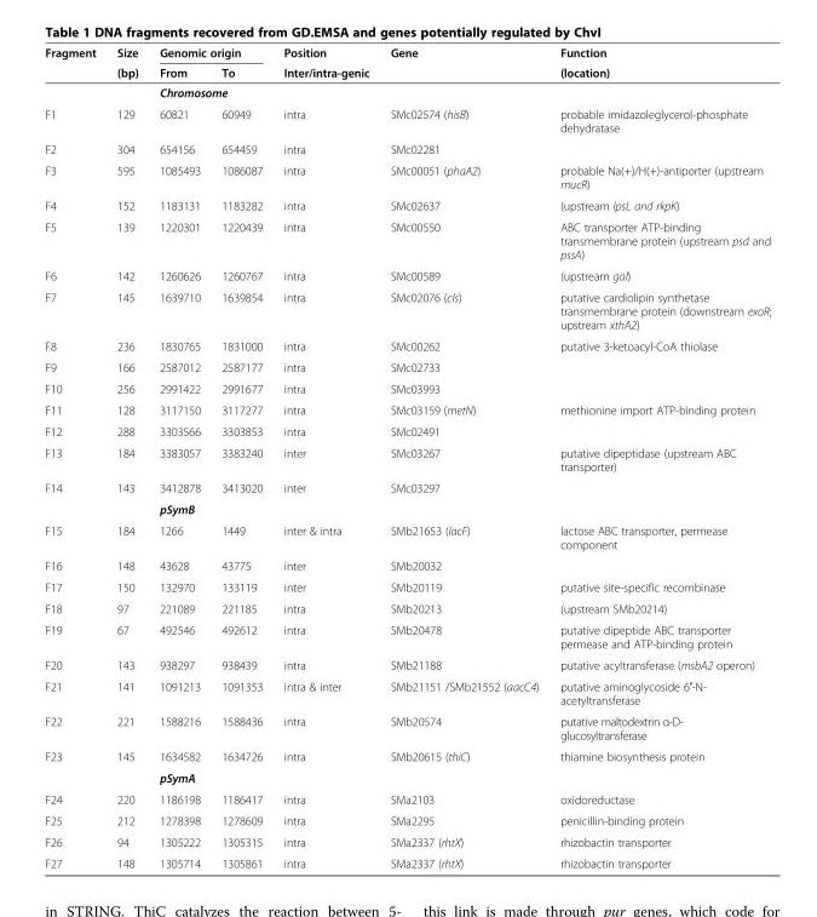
<table><thead><tr><td rowspan="2">Fragment</td><td rowspan="2">Size (bp)</td><td colspan="2">Genomic origin</td><td rowspan="2">Position Inter/intra-genic</td><td rowspan="2">Gene</td><td rowspan="2">Function (location)</td></tr><tr><td>From</td><td>To</td></tr></thead><tbody><tr><td></td><td></td><td colspan="2">Chromosome</td><td></td><td></td><td></td></tr><tr><td>F1</td><td>129</td><td>60821</td><td>60949</td><td>intra</td><td>SMc02574 (hisB)</td><td>probable imidazoleglycerol-phosphate dehydratase</td></tr><tr><td>F2</td><td>304</td><td>654156</td><td>654459</td><td>intra</td><td>SMc02281</td><td></td></tr><tr><td>F3</td><td>595</td><td>1085493</td><td>1086087</td><td>intra</td><td>SMc00051 (phaA2)</td><td>probable Na(+)/H(+)-antiporter (upstream mucR)</td></tr><tr><td>F4</td><td>152</td><td>1183131</td><td>1183282</td><td>intra</td><td>SMc02637</td><td>(upstream lpsL and rkpK)</td></tr><tr><td>F5</td><td>139</td><td>1220301</td><td>1220439</td><td>intra</td><td>SMc00550</td><td>ABC transporter ATP-binding transmembrane protein (upstream psd and pssA)</td></tr><tr><td>F6</td><td>142</td><td>1260626</td><td>1260767</td><td>intra</td><td>SMc00589</td><td>(upstream gal)</td></tr><tr><td>F7</td><td>145</td><td>1639710</td><td>1639854</td><td>intra</td><td>SMc02076 (cls)</td><td>putative cardiolipin synthetase transmembrane protein (downstream exoR; upstream xthA2)</td></tr><tr><td>F8</td><td>236</td><td>1830765</td><td>1831000</td><td>intra</td><td>SMc00262</td><td>putative 3-ketoacyl-CoA thiolase</td></tr><tr><td>F9</td><td>166</td><td>2587012</td><td>2587177</td><td>intra</td><td>SMc02733</td><td></td></tr><tr><td>F10</td><td>256</td><td>2991422</td><td>2991677</td><td>intra</td><td>SMc03993</td><td></td></tr><tr><td>F11</td><td>128</td><td>3117150</td><td>3117277</td><td>intra</td><td>SMc03159 (metN)</td><td>methionine import ATP-binding protein</td></tr><tr><td>F12</td><td>288</td><td>3303566</td><td>3303853</td><td>intra</td><td>SMc02491</td><td></td></tr><tr><td>F13</td><td>184</td><td>3383057</td><td>3383240</td><td>inter</td><td>SMc03267</td><td>putative dipeptidase (upstream ABC transporter)</td></tr><tr><td rowspan="2">F14</td><td>143</td><td>3412878</td><td>3413020</td><td>inter</td><td>SMc03297</td><td></td></tr><tr><td></td><td>pSymB</td><td></td><td></td><td></td><td></td></tr><tr><td>F15</td><td>184</td><td>1266</td><td>1449</td><td>inter &amp; intra</td><td>SMb21653 (lacF)</td><td>lactose ABC transporter, permease component</td></tr><tr><td>F16</td><td>148</td><td>43628</td><td>43775</td><td>inter</td><td>SMb20032</td><td></td></tr><tr><td>F17</td><td>150</td><td>132970</td><td>133119</td><td>inter</td><td>SMb20119</td><td>putative site-specific recombinase</td></tr><tr><td>F18</td><td>97</td><td>221089</td><td>221185</td><td>intra</td><td>SMb20213</td><td>(upstream SMb20214)</td></tr><tr><td>F19</td><td>67</td><td>492546</td><td>492612</td><td>intra</td><td>SMb20478</td><td>putative dipeptide ABC transporter permease and ATP-binding protein</td></tr><tr><td>F20</td><td>143</td><td>938297</td><td>938439</td><td>intra</td><td>SMb21188</td><td>putative acyltransferase (msbA2 operon)</td></tr><tr><td>F21</td><td>141</td><td>1091213</td><td>1091353</td><td>intra &amp; inter</td><td>SMb21151 /SMb21552 (aacC4)</td><td>putative aminoglycoside 6′-N- acetyltransferase</td></tr><tr><td>F22</td><td>221</td><td>1588216</td><td>1588436</td><td>intra</td><td>SMb20574</td><td>putative maltodextrin α-D- glucosyltransferase</td></tr><tr><td rowspan="2">F23</td><td>145</td><td>1634582</td><td>1634726</td><td>intra</td><td>SMb20615 (thiC)</td><td>thiamine biosynthesis protein</td></tr><tr><td></td><td>pSymA</td><td></td><td></td><td></td><td></td></tr><tr><td>F24</td><td>220</td><td>1186198</td><td>1186417</td><td>intra</td><td>SMa2103</td><td>oxidoreductase</td></tr><tr><td>F25</td><td>212</td><td>1278398</td><td>1278609</td><td>intra</td><td>SMa2295</td><td>penicillin-binding protein</td></tr><tr><td>F26</td><td>94</td><td>1305222</td><td>1305315</td><td>intra</td><td>SMa2337 (rhtX)</td><td>rhizobactin transporter</td></tr><tr><td>F27</td><td>148</td><td>1305714</td><td>1305861</td><td>intra</td><td>SMa2337 (rhtX)</td><td>rhizobactin transporter</td></tr></tbody></table>